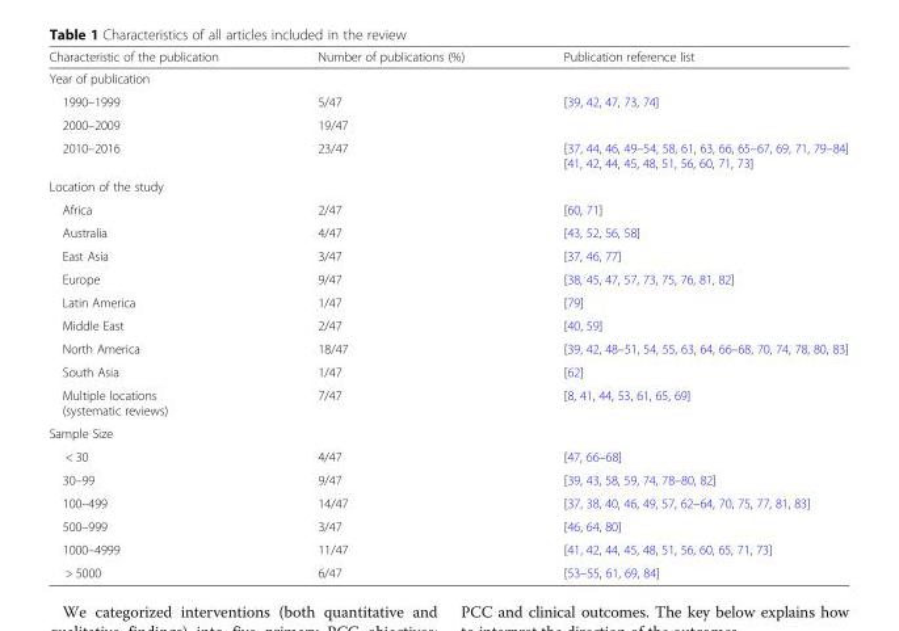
<table><thead><tr><td>Characteristic of the publication</td><td>Number of publications (%)</td><td>Publication reference list</td></tr></thead><tbody><tr><td colspan="3">Year of publication</td></tr><tr><td>1990–1999</td><td>5/47</td><td>[39, 42, 47, 73, 74]</td></tr><tr><td>2000–2009</td><td>19/47</td><td></td></tr><tr><td>2010–2016</td><td>23/47</td><td>[37, 44, 46, 49–54, 58, 61, 63, 66, 65–67, 69, 71, 79–84] [41, 42, 44, 45, 48, 51, 56, 60, 71, 73]</td></tr><tr><td colspan="3">Location of the study</td></tr><tr><td>Africa</td><td>2/47</td><td>[60, 71]</td></tr><tr><td>Australia</td><td>4/47</td><td>[43, 52, 56, 58]</td></tr><tr><td>East Asia</td><td>3/47</td><td>[37, 46, 77]</td></tr><tr><td>Europe</td><td>9/47</td><td>[38, 45, 47, 57, 73, 75, 76, 81, 82]</td></tr><tr><td>Latin America</td><td>1/47</td><td>[79]</td></tr><tr><td>Middle East</td><td>2/47</td><td>[40, 59]</td></tr><tr><td>North America</td><td>18/47</td><td>[39, 42, 48–51, 54, 55, 63, 64, 66–68, 70, 74, 78, 80, 83]</td></tr><tr><td>South Asia</td><td>1/47</td><td>[62]</td></tr><tr><td>Multiple locations (systematic reviews)</td><td>7/47</td><td>[8, 41, 44, 53, 61, 65, 69]</td></tr><tr><td colspan="3">Sample Size</td></tr><tr><td>&lt; 30</td><td>4/47</td><td>[47, 66–68]</td></tr><tr><td>30–99</td><td>9/47</td><td>[39, 43, 58, 59, 74, 78–80, 82]</td></tr><tr><td>100–499</td><td>14/47</td><td>[37, 38, 40, 46, 49, 57, 62–64, 70, 75, 77, 81, 83]</td></tr><tr><td>500–999</td><td>3/47</td><td>[46, 64, 80]</td></tr><tr><td>1000–4999</td><td>11/47</td><td>[41, 42, 44, 45, 48, 51, 56, 60, 65, 71, 73]</td></tr><tr><td>&gt; 5000</td><td>6/47</td><td>[53–55, 61, 69, 84]</td></tr></tbody></table>